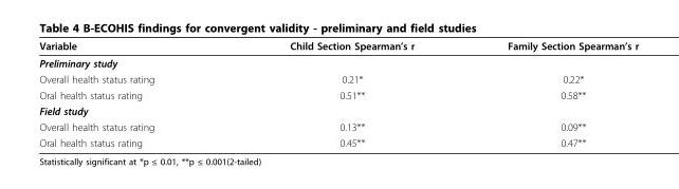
<table><thead><tr><td>Variable</td><td>Child Section Spearman’s r</td><td>Family Section Spearman’s r</td></tr></thead><tbody><tr><td colspan="3">Preliminary study</td></tr><tr><td>Overall health status rating</td><td>0.21*</td><td>0.22*</td></tr><tr><td>Oral health status rating</td><td>0.51**</td><td>0.58**</td></tr><tr><td colspan="3">Field study</td></tr><tr><td>Overall health status rating</td><td>0.13**</td><td>0.09**</td></tr><tr><td>Oral health status rating</td><td>0.45**</td><td>0.47**</td></tr></tbody></table>